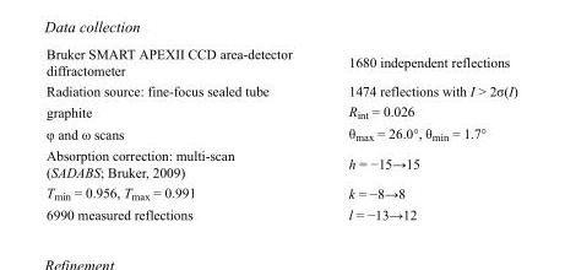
<table><tbody><tr><td>Bruker SMART APEXII CCD area-detector diffractometer</td><td>1680 independent reflections</td></tr><tr><td>Radiation source: fine-focus sealed tube</td><td>1474 reflections with I &gt; 2σ(I)</td></tr><tr><td>graphite</td><td>R<sub>int</sub> = 0.026</td></tr><tr><td>φ and ω scans</td><td>θ<sub>max</sub> = 26.0°, θ<sub>min</sub> = 1.7°</td></tr><tr><td>Absorption correction: multi-scan (SADABS; Bruker, 2009)</td><td>h = −15→15</td></tr><tr><td>T<sub>min</sub> = 0.956, T<sub>max</sub> = 0.991</td><td>k = −8→8</td></tr><tr><td>6990 measured reflections</td><td>l = −13→12</td></tr></tbody></table>